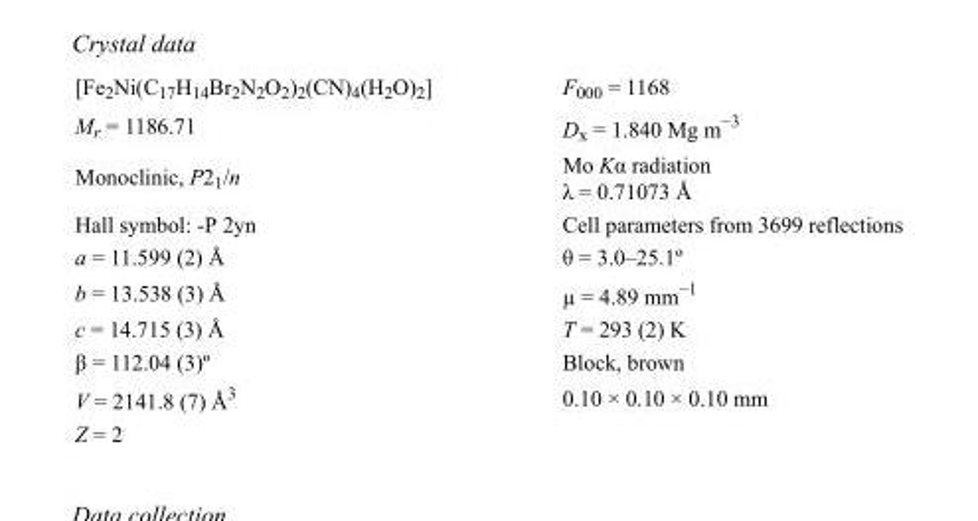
<table><tbody><tr><td>[Fe2Ni(C17H14Br2N2O2)2(CN)4(H2O)2]</td><td>F000 = 1168</td></tr><tr><td>Mr = 1186.71</td><td>Dx = 1.840 Mg m−3</td></tr><tr><td>Monoclinic, P21/n</td><td>Mo Kα radiation λ = 0.71073 Å</td></tr><tr><td>Hall symbol: -P 2yn</td><td>Cell parameters from 3699 reflections</td></tr><tr><td>a = 11.599 (2) Å</td><td>θ = 3.0–25.1º</td></tr><tr><td>b = 13.538 (3) Å</td><td>µ = 4.89 mm−1</td></tr><tr><td>c = 14.715 (3) Å</td><td>T = 293 (2) K</td></tr><tr><td>β = 112.04 (3)º</td><td>Block, brown</td></tr><tr><td>V = 2141.8 (7) Å3</td><td>0.10 × 0.10 × 0.10 mm</td></tr><tr><td>Z = 2</td><td></td></tr></tbody></table>